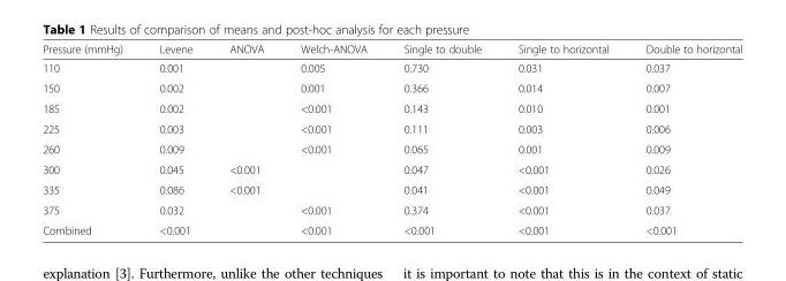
<table><thead><tr><td>Pressure (mmHg)</td><td>Levene</td><td>ANOVA</td><td>Welch-ANOVA</td><td>Single to double</td><td>Single to horizontal</td><td>Double to horizontal</td></tr></thead><tbody><tr><td>110</td><td>0.001</td><td></td><td>0.005</td><td>0.730</td><td>0.031</td><td>0.037</td></tr><tr><td>150</td><td>0.002</td><td></td><td>0.001</td><td>0.366</td><td>0.014</td><td>0.007</td></tr><tr><td>185</td><td>0.002</td><td></td><td>&lt;0.001</td><td>0.143</td><td>0.010</td><td>0.001</td></tr><tr><td>225</td><td>0.003</td><td></td><td>&lt;0.001</td><td>0.111</td><td>0.003</td><td>0.006</td></tr><tr><td>260</td><td>0.009</td><td></td><td>&lt;0.001</td><td>0.065</td><td>0.001</td><td>0.009</td></tr><tr><td>300</td><td>0.045</td><td>&lt;0.001</td><td></td><td>0.047</td><td>&lt;0.001</td><td>0.026</td></tr><tr><td>335</td><td>0.086</td><td>&lt;0.001</td><td></td><td>0.041</td><td>&lt;0.001</td><td>0.049</td></tr><tr><td>375</td><td>0.032</td><td></td><td>&lt;0.001</td><td>0.374</td><td>&lt;0.001</td><td>0.037</td></tr><tr><td>Combined</td><td>&lt;0.001</td><td></td><td>&lt;0.001</td><td>&lt;0.001</td><td>&lt;0.001</td><td>&lt;0.001</td></tr></tbody></table>